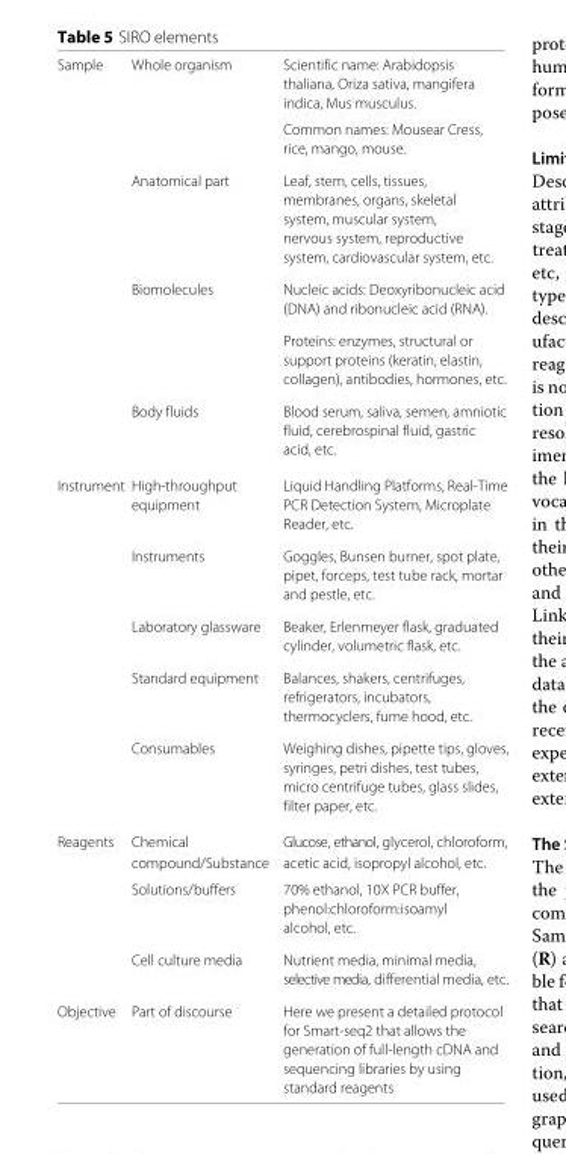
<table><tbody><tr><td rowspan="18">Sample</td><td>Whole organism</td><td>Scientific name: Arabidopsis</td></tr><tr><td></td><td>thaliana, Oriza sativa, mangifera</td></tr><tr><td></td><td>indica, Mus musculus.</td></tr><tr><td></td><td>Common names: Mousear Cress,</td></tr><tr><td></td><td>rice, mango, mouse.</td></tr><tr><td>Anatomical part</td><td>Leaf, stem, cells, tissues,</td></tr><tr><td></td><td>membranes, organs, skeletal</td></tr><tr><td></td><td>system, muscular system,</td></tr><tr><td></td><td>nervous system, reproductive</td></tr><tr><td></td><td>system, cardiovascular system, etc.</td></tr><tr><td>Biomolecules</td><td>Nucleic acids: Deoxyribonucleic acid</td></tr><tr><td></td><td>(DNA) and ribonucleic acid (RNA).</td></tr><tr><td></td><td>Proteins: enzymes, structural or</td></tr><tr><td></td><td>support proteins (keratin, elastin,</td></tr><tr><td></td><td>collagen), antibodies, hormones, etc.</td></tr><tr><td>Body fluids</td><td>Blood serum, saliva, semen, amniotic</td></tr><tr><td></td><td>fluid, cerebrospinal fluid, gastric</td></tr><tr><td></td><td>acid, etc.</td></tr><tr><td rowspan="15">Instrument</td><td>High-throughput</td><td>Liquid Handling Platforms, Real-Time</td></tr><tr><td>equipment</td><td>PCR Detection System, Microplate</td></tr><tr><td></td><td>Reader, etc.</td></tr><tr><td>Instruments</td><td>Goggles, Bunsen burner, spot plate,</td></tr><tr><td></td><td>pipet, forceps, test tube rack, mortar</td></tr><tr><td></td><td>and pestle, etc.</td></tr><tr><td>Laboratory glassware</td><td>Beaker, Erlenmeyer flask, graduated</td></tr><tr><td></td><td>cylinder, volumetric flask, etc.</td></tr><tr><td>Standard equipment</td><td>Balances, shakers, centrifuges,</td></tr><tr><td></td><td>refrigerators, incubators,</td></tr><tr><td></td><td>thermocyclers, fume hood, etc.</td></tr><tr><td>Consumables</td><td>Weighing dishes, pipette tips, gloves,</td></tr><tr><td></td><td>syringes, petri dishes, test tubes,</td></tr><tr><td></td><td>micro centrifuge tubes, glass slides,</td></tr><tr><td></td><td>filter paper, etc.</td></tr><tr><td rowspan="7">Reagents</td><td>Chemical</td><td>Glucose, ethanol, glycerol, chloroform,</td></tr><tr><td>compound/Substance</td><td>acetic acid, isopropyl alcohol, etc.</td></tr><tr><td>Solutions/buffers</td><td>70% ethanol, 10X PCR buffer,</td></tr><tr><td></td><td>phenol:chloroform:isoamyl</td></tr><tr><td></td><td>alcohol, etc.</td></tr><tr><td>Cell culture media</td><td>Nutrient media, minimal media,</td></tr><tr><td></td><td>selective media, differential media, etc.</td></tr><tr><td rowspan="5">Objective</td><td>Part of discourse</td><td>Here we present a detailed protocol</td></tr><tr><td></td><td>for Smart-seq2 that allows the</td></tr><tr><td></td><td>generation of full-length cDNA and</td></tr><tr><td></td><td>sequencing libraries by using</td></tr><tr><td></td><td>standard reagents</td></tr></tbody></table>